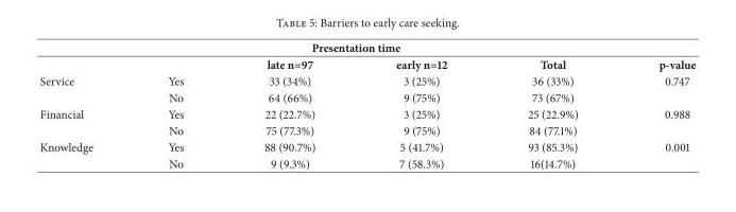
<table><thead><tr><td rowspan="2"></td><td rowspan="2"></td><td colspan="2">Presentation time</td><td rowspan="2">Total</td><td rowspan="2">p-value</td></tr><tr><td>late n=97</td><td>early n=12</td></tr></thead><tbody><tr><td rowspan="2">Service</td><td>Yes</td><td>33 (34%)</td><td>3 (25%)</td><td>36 (33%)</td><td>0.747</td></tr><tr><td>No</td><td>64 (66%)</td><td>9 (75%)</td><td>73 (67%)</td><td></td></tr><tr><td rowspan="2">Financial</td><td>Yes</td><td>22 (22.7%)</td><td>3 (25%)</td><td>25 (22.9%)</td><td>0.988</td></tr><tr><td>No</td><td>75 (77.3%)</td><td>9 (75%)</td><td>84 (77.1%)</td><td></td></tr><tr><td rowspan="2">Knowledge</td><td>Yes</td><td>88 (90.7%)</td><td>5 (41.7%)</td><td>93 (85.3%)</td><td>0.001</td></tr><tr><td>No</td><td>9 (9.3%)</td><td>7 (58.3%)</td><td>16(14.7%)</td><td></td></tr></tbody></table>